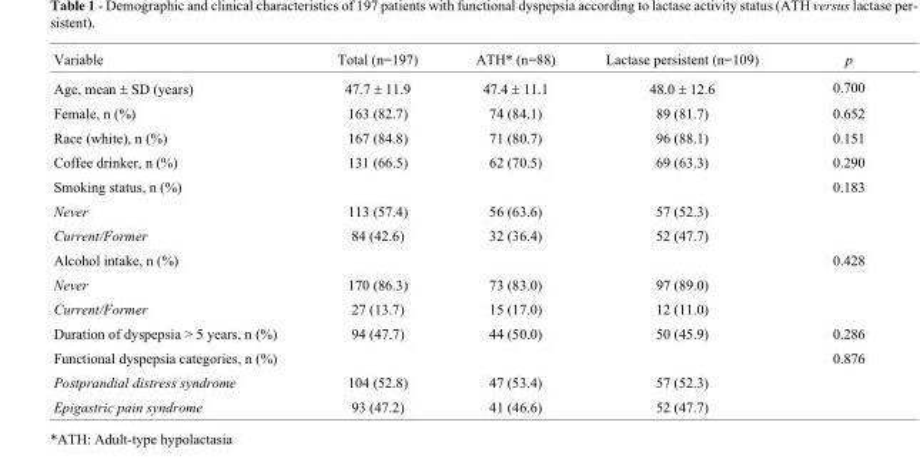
<table><thead><tr><td>Variable</td><td>Total (n=197)</td><td>ATH* (n=88)</td><td>Lactase persistent (n=109)</td><td>p</td></tr></thead><tbody><tr><td>Age, mean ± SD (years)</td><td>47.7 ± 11.9</td><td>47.4 ± 11.1</td><td>48.0 ± 12.6</td><td>0.700</td></tr><tr><td>Female, n (%)</td><td>163 (82.7)</td><td>74 (84.1)</td><td>89 (81.7)</td><td>0.652</td></tr><tr><td>Race (white), n (%)</td><td>167 (84.8)</td><td>71 (80.7)</td><td>96 (88.1)</td><td>0.151</td></tr><tr><td>Coffee drinker, n (%)</td><td>131 (66.5)</td><td>62 (70.5)</td><td>69 (63.3)</td><td>0.290</td></tr><tr><td>Smoking status, n (%)</td><td></td><td></td><td></td><td>0.183</td></tr><tr><td>Never</td><td>113 (57.4)</td><td>56 (63.6)</td><td>57 (52.3)</td><td></td></tr><tr><td>Current/Former</td><td>84 (42.6)</td><td>32 (36.4)</td><td>52 (47.7)</td><td></td></tr><tr><td>Alcohol intake, n (%)</td><td></td><td></td><td></td><td>0.428</td></tr><tr><td>Never</td><td>170 (86.3)</td><td>73 (83.0)</td><td>97 (89.0)</td><td></td></tr><tr><td>Current/Former</td><td>27 (13.7)</td><td>15 (17.0)</td><td>12 (11.0)</td><td></td></tr><tr><td>Duration of dyspepsia &gt; 5 years, n (%)</td><td>94 (47.7)</td><td>44 (50.0)</td><td>50 (45.9)</td><td>0.286</td></tr><tr><td>Functional dyspepsia categories, n (%)</td><td></td><td></td><td></td><td>0.876</td></tr><tr><td>Postprandial distress syndrome</td><td>104 (52.8)</td><td>47 (53.4)</td><td>57 (52.3)</td><td></td></tr><tr><td>Epigastric pain syndrome</td><td>93 (47.2)</td><td>41 (46.6)</td><td>52 (47.7)</td><td></td></tr></tbody></table>